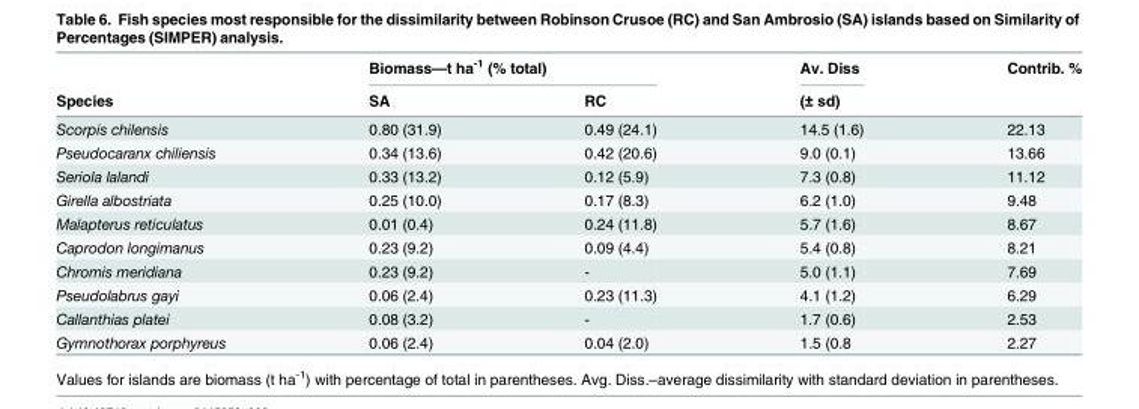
<table><thead><tr><td rowspan="2">Species</td><td colspan="2">Biomass—t ha<sup>-1</sup> (% total)</td><td rowspan="2">Av. Diss (± sd)</td><td rowspan="2">Contrib. %</td></tr><tr><td>SA</td><td>RC</td></tr></thead><tbody><tr><td>Scorpis chilensis</td><td>0.80 (31.9)</td><td>0.49 (24.1)</td><td>14.5 (1.6)</td><td>22.13</td></tr><tr><td>Pseudocaranx chiliensis</td><td>0.34 (13.6)</td><td>0.42 (20.6)</td><td>9.0 (0.1)</td><td>13.66</td></tr><tr><td>Seriola lalandi</td><td>0.33 (13.2)</td><td>0.12 (5.9)</td><td>7.3 (0.8)</td><td>11.12</td></tr><tr><td>Girella albostriata</td><td>0.25 (10.0)</td><td>0.17 (8.3)</td><td>6.2 (1.0)</td><td>9.48</td></tr><tr><td>Malapterus reticulatus</td><td>0.01 (0.4)</td><td>0.24 (11.8)</td><td>5.7 (1.6)</td><td>8.67</td></tr><tr><td>Caprodon longimanus</td><td>0.23 (9.2)</td><td>0.09 (4.4)</td><td>5.4 (0.8)</td><td>8.21</td></tr><tr><td>Chromis meridiana</td><td>0.23 (9.2)</td><td>-</td><td>5.0 (1.1)</td><td>7.69</td></tr><tr><td>Pseudolabrus gayi</td><td>0.06 (2.4)</td><td>0.23 (11.3)</td><td>4.1 (1.2)</td><td>6.29</td></tr><tr><td>Callanthias platei</td><td>0.08 (3.2)</td><td>-</td><td>1.7 (0.6)</td><td>2.53</td></tr><tr><td>Gymnothorax porphyreus</td><td>0.06 (2.4)</td><td>0.04 (2.0)</td><td>1.5 (0.8</td><td>2.27</td></tr></tbody></table>